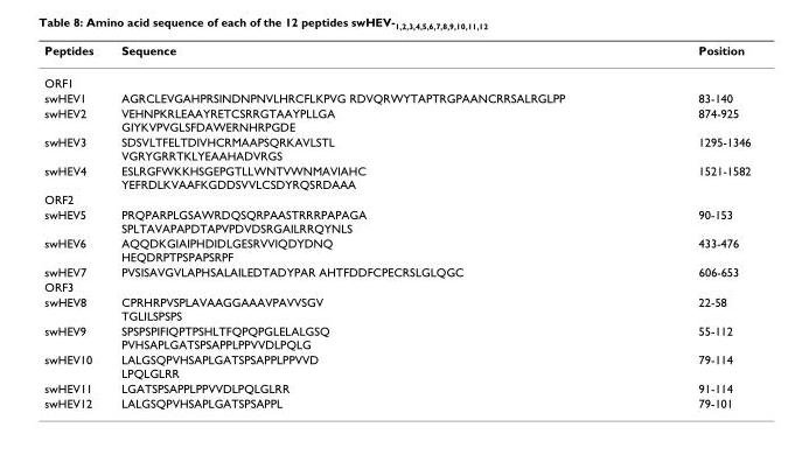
<table><thead><tr><td>Peptides</td><td>Sequence</td><td>Position</td></tr></thead><tbody><tr><td colspan="3">ORF1</td></tr><tr><td>swHEV1</td><td>AGRCLEVGAHPRSINDNPNVLHRCFLKPVG RDVQRWYTAPTRGPAANCRRSALRGLPP</td><td>83-140</td></tr><tr><td>swHEV2</td><td>VEHNPKRLEAAYRETCSRRGTAAYPLLGA GIYKVPVGLSFDAWERNHRPGDE</td><td>874-925</td></tr><tr><td>swHEV3</td><td>SDSVLTFELTDIVHCRMAAPSQRKAVLSTL VGRYGRRTKLYEAAHADVRGS</td><td>1295-1346</td></tr><tr><td>swHEV4</td><td>ESLRGFWKKHSGEPGTLLWNTVWNMAVIAHC YEFRDLKVAAFKGDDSVVLCSDYRQSRDAAA</td><td>1521-1582</td></tr><tr><td colspan="3">ORF2</td></tr><tr><td>swHEV5</td><td>PRQPARPLGSAWRDQSQRPAASTRRRPAPAGA SPLTAVAPAPDTAPVPDVDSRGAILRRQYNLS</td><td>90-153</td></tr><tr><td>swHEV6</td><td>AQQDKGIAIPHDIDLGESRVVIQDYDNQ HEQDRPTPSPAPSRPF</td><td>433-476</td></tr><tr><td>swHEV7</td><td>PVSISAVGVLAPHSALAILEDTADYPAR AHTFDDFCPECRSLGLQGC</td><td>606-653</td></tr><tr><td colspan="3">ORF3</td></tr><tr><td>swHEV8</td><td>CPRHRPVSPLAVAAGGAAAVPAVVSGV TGLILSPSPS</td><td>22-58</td></tr><tr><td>swHEV9</td><td>SPSPSPIFIQPTPSHLTFQPQPGLELALGSQ PVHSAPLGATSPSAPPLPPVVDLPQLG</td><td>55-112</td></tr><tr><td>swHEV10</td><td>LALGSQPVHSAPLGATSPSAPPLPPVVD LPQLGLRR</td><td>79-114</td></tr><tr><td>swHEV11</td><td>LGATSPSAPPLPPVVDLPQLGLRR</td><td>91-114</td></tr><tr><td>swHEV12</td><td>LALGSQPVHSAPLGATSPSAPPL</td><td>79-101</td></tr></tbody></table>